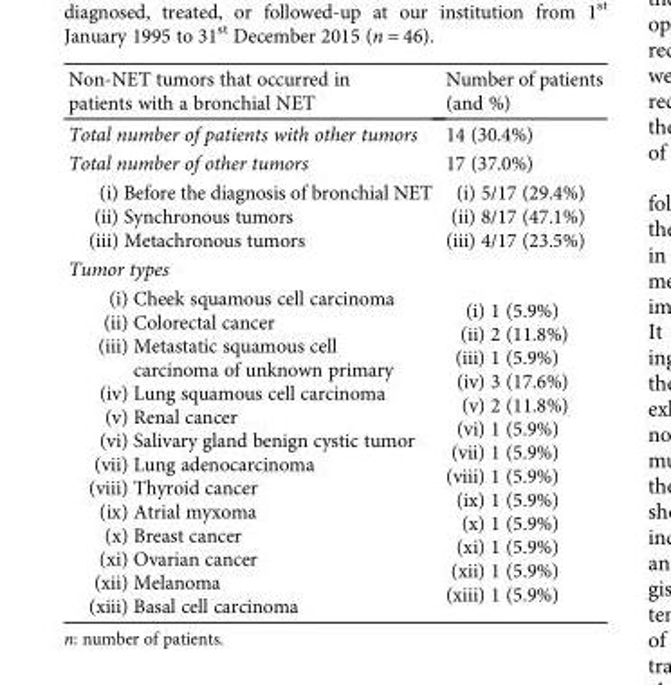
<table><thead><tr><td>Non-NET tumors that occurred in patients with a bronchial NET</td><td>Number of patients (and %)</td></tr></thead><tbody><tr><td>Total number of patients with other tumors</td><td>14 (30.4%)</td></tr><tr><td>Total number of other tumors</td><td>17 (37.0%)</td></tr><tr><td>(i) Before the diagnosis of bronchial NET (ii) Synchronous tumors (iii) Metachronous tumors</td><td>(i) 5/17 (29.4%) (ii) 8/17 (47.1%) (iii) 4/17 (23.5%)</td></tr><tr><td colspan="2">Tumor types</td></tr><tr><td>(i) Cheek squamous cell carcinoma (ii) Colorectal cancer (iii) Metastatic squamous cell carcinoma of unknown primary (iv) Lung squamous cell carcinoma (v) Renal cancer (vi) Salivary gland benign cystic tumor (vii) Lung adenocarcinoma (viii) Thyroid cancer (ix) Atrial myxoma (x) Breast cancer (xi) Ovarian cancer (xii) Melanoma (xiii) Basal cell carcinoma</td><td>(i) 1 (5.9%) (ii) 2 (11.8%) (iii) 1 (5.9%) (iv) 3 (17.6%) (v) 2 (11.8%) (vi) 1 (5.9%) (vii) 1 (5.9%) (viii) 1 (5.9%) (ix) 1 (5.9%) (x) 1 (5.9%) (xi) 1 (5.9%) (xii) 1 (5.9%) (xiii) 1 (5.9%)</td></tr></tbody></table>